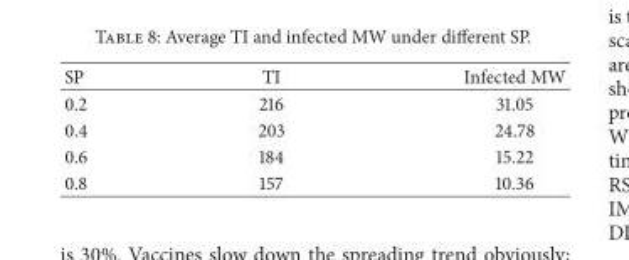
<table><thead><tr><td>SP</td><td>TI</td><td>Infected MW</td></tr></thead><tbody><tr><td>0.2</td><td>216</td><td>31.05</td></tr><tr><td>0.4</td><td>203</td><td>24.78</td></tr><tr><td>0.6</td><td>184</td><td>15.22</td></tr><tr><td>0.8</td><td>157</td><td>10.36</td></tr></tbody></table>